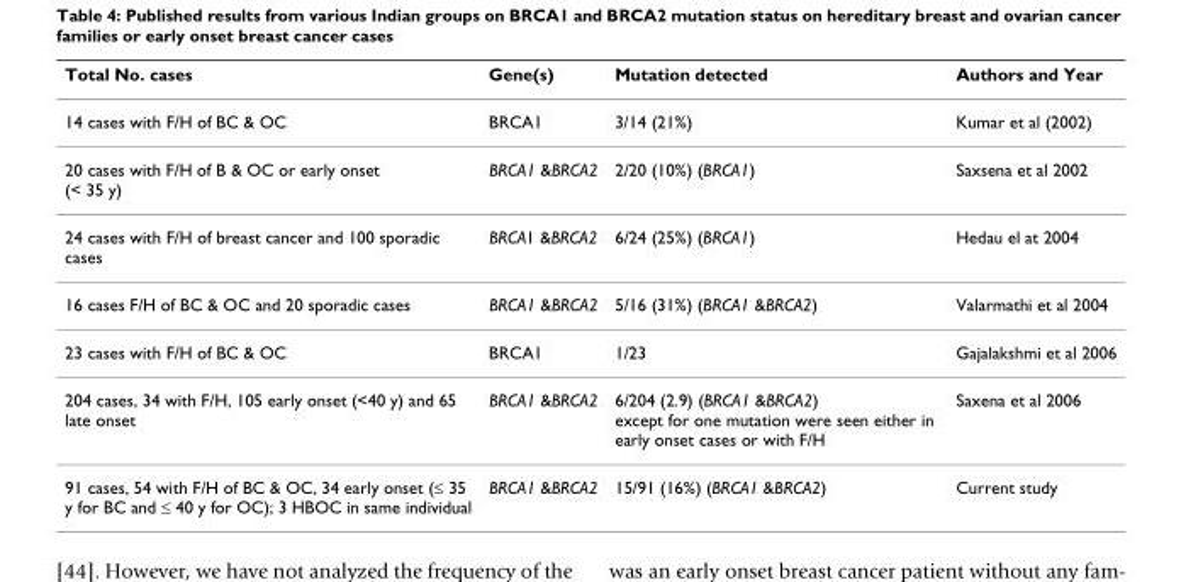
<table><thead><tr><td>Total No. cases</td><td>Gene(s)</td><td>Mutation detected</td><td>Authors and Year</td></tr></thead><tbody><tr><td>14 cases with F/H of BC &amp; OC</td><td>BRCA1</td><td>3/14 (21%)</td><td>Kumar et al (2002)</td></tr><tr><td>20 cases with F/H of B &amp; OC or early onset (&lt; 35 y)</td><td>BRCA1 &amp;BRCA2</td><td>2/20 (10%) (BRCA1)</td><td>Saxsena et al 2002</td></tr><tr><td>24 cases with F/H of breast cancer and 100 sporadic cases</td><td>BRCA1 &amp;BRCA2</td><td>6/24 (25%) (BRCA1)</td><td>Hedau el at 2004</td></tr><tr><td>16 cases F/H of BC &amp; OC and 20 sporadic cases</td><td>BRCA1 &amp;BRCA2</td><td>5/16 (31%) (BRCA1 &amp;BRCA2)</td><td>Valarmathi et al 2004</td></tr><tr><td>23 cases with F/H of BC &amp; OC</td><td>BRCA1</td><td>1/23</td><td>Gajalakshmi et al 2006</td></tr><tr><td>204 cases, 34 with F/H, 105 early onset (&lt;40 y) and 65 late onset</td><td>BRCA1 &amp;BRCA2</td><td>6/204 (2.9) (BRCA1 &amp;BRCA2) except for one mutation were seen either in early onset cases or with F/H</td><td>Saxena et al 2006</td></tr><tr><td>91 cases, 54 with F/H of BC &amp; OC, 34 early onset (≤ 35 y for BC and ≤ 40 y for OC); 3 HBOC in same individual</td><td>BRCA1 &amp;BRCA2</td><td>15/91 (16%) (BRCA1 &amp;BRCA2)</td><td>Current study</td></tr></tbody></table>